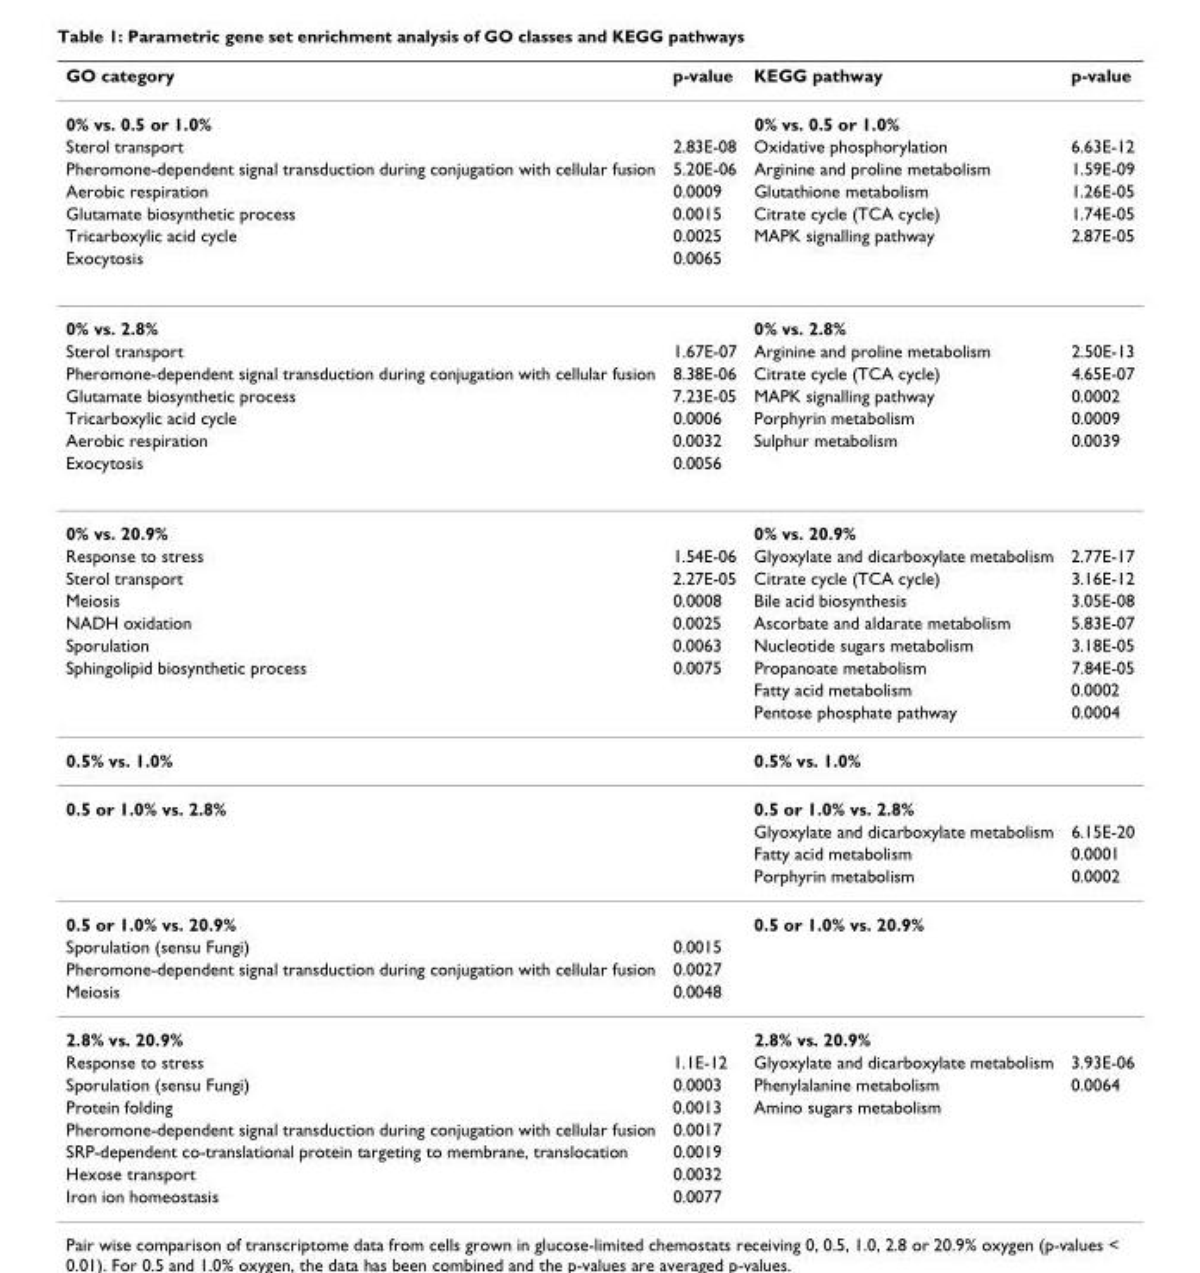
<table><thead><tr><td>GO category</td><td>p-value</td><td>KEGG pathway</td><td>p-value</td></tr></thead><tbody><tr><td>0% vs. 0.5 or 1.0%</td><td></td><td>0% vs. 0.5 or 1.0%</td><td></td></tr><tr><td>Sterol transport</td><td>2.83E-08</td><td>Oxidative phosphorylation</td><td>6.63E-12</td></tr><tr><td>Pheromone-dependent signal transduction during conjugation with cellular fusion</td><td>5.20E-06</td><td>Arginine and proline metabolism</td><td>1.59E-09</td></tr><tr><td>Aerobic respiration</td><td>0.0009</td><td>Glutathione metabolism</td><td>1.26E-05</td></tr><tr><td>Glutamate biosynthetic process</td><td>0.0015</td><td>Citrate cycle (TCA cycle)</td><td>1.74E-05</td></tr><tr><td>Tricarboxylic acid cycle</td><td>0.0025</td><td>MAPK signalling pathway</td><td>2.87E-05</td></tr><tr><td>Exocytosis</td><td>0.0065</td><td></td><td></td></tr><tr><td>0% vs. 2.8%</td><td></td><td>0% vs. 2.8%</td><td></td></tr><tr><td>Sterol transport</td><td>1.67E-07</td><td>Arginine and proline metabolism</td><td>2.50E-13</td></tr><tr><td>Pheromone-dependent signal transduction during conjugation with cellular fusion</td><td>8.38E-06</td><td>Citrate cycle (TCA cycle)</td><td>4.65E-07</td></tr><tr><td>Glutamate biosynthetic process</td><td>7.23E-05</td><td>MAPK signalling pathway</td><td>0.0002</td></tr><tr><td>Tricarboxylic acid cycle</td><td>0.0006</td><td>Porphyrin metabolism</td><td>0.0009</td></tr><tr><td>Aerobic respiration</td><td>0.0032</td><td>Sulphur metabolism</td><td>0.0039</td></tr><tr><td>Exocytosis</td><td>0.0056</td><td></td><td></td></tr><tr><td>0% vs. 20.9%</td><td></td><td>0% vs. 20.9%</td><td></td></tr><tr><td>Response to stress</td><td>1.54E-06</td><td>Glyoxylate and dicarboxylate metabolism</td><td>2.77E-17</td></tr><tr><td>Sterol transport</td><td>2.27E-05</td><td>Citrate cycle (TCA cycle)</td><td>3.16E-12</td></tr><tr><td>Meiosis</td><td>0.0008</td><td>Bile acid biosynthesis</td><td>3.05E-08</td></tr><tr><td>NADH oxidation</td><td>0.0025</td><td>Ascorbate and aldarate metabolism</td><td>5.83E-07</td></tr><tr><td>Sporulation</td><td>0.0063</td><td>Nucleotide sugars metabolism</td><td>3.18E-05</td></tr><tr><td rowspan="3">Sphingolipid biosynthetic process</td><td>0.0075</td><td>Propanoate metabolism</td><td>7.84E-05</td></tr><tr><td></td><td>Fatty acid metabolism</td><td>0.0002</td></tr><tr><td></td><td>Pentose phosphate pathway</td><td>0.0004</td></tr><tr><td>0.5% vs. 1.0%</td><td></td><td>0.5% vs. 1.0%</td><td></td></tr><tr><td rowspan="4">0.5 or 1.0% vs. 2.8%</td><td></td><td>0.5 or 1.0% vs. 2.8%</td><td></td></tr><tr><td></td><td>Glyoxylate and dicarboxylate metabolism</td><td>6.15E-20</td></tr><tr><td></td><td>Fatty acid metabolism</td><td>0.0001</td></tr><tr><td></td><td>Porphyrin metabolism</td><td>0.0002</td></tr><tr><td>0.5 or 1.0% vs. 20.9%</td><td></td><td>0.5 or 1.0% vs. 20.9%</td><td></td></tr><tr><td>Sporulation (sensu Fungi)</td><td>0.0015</td><td></td><td></td></tr><tr><td>Pheromone-dependent signal transduction during conjugation with cellular fusion</td><td>0.0027</td><td></td><td></td></tr><tr><td>Meiosis</td><td>0.0048</td><td></td><td></td></tr><tr><td>2.8% vs. 20.9%</td><td></td><td>2.8% vs. 20.9%</td><td></td></tr><tr><td>Response to stress</td><td>1.1E-12</td><td>Glyoxylate and dicarboxylate metabolism</td><td>3.93E-06</td></tr><tr><td>Sporulation (sensu Fungi)</td><td>0.0003</td><td>Phenylalanine metabolism</td><td>0.0064</td></tr><tr><td>Protein folding</td><td>0.0013</td><td>Amino sugars metabolism</td><td></td></tr><tr><td>Pheromone-dependent signal transduction during conjugation with cellular fusion</td><td>0.0017</td><td></td><td></td></tr><tr><td>SRP-dependent co-translational protein targeting to membrane, translocation</td><td>0.0019</td><td></td><td></td></tr><tr><td>Hexose transport</td><td>0.0032</td><td></td><td></td></tr><tr><td>Iron ion homeostasis</td><td>0.0077</td><td></td><td></td></tr></tbody></table>